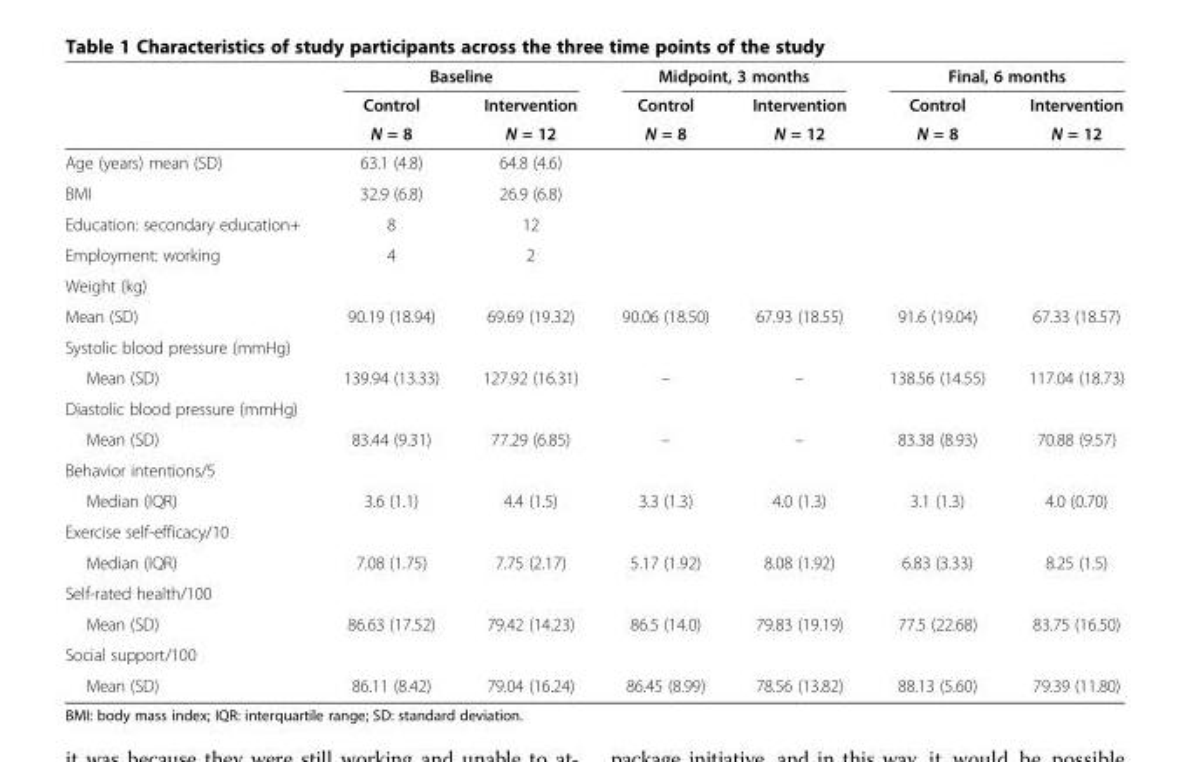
<table><thead><tr><td rowspan="3"></td><td colspan="2">Baseline</td><td colspan="2">Midpoint, 3 months</td><td colspan="2">Final, 6 months</td></tr><tr><td rowspan="2">Control N = 8</td><td rowspan="2">Intervention N = 12</td><td rowspan="2">Control N = 8</td><td rowspan="2">Intervention N = 12</td><td rowspan="2">Control N = 8</td><td rowspan="2">Intervention N = 12</td></tr><tr></tr></thead><tbody><tr><td>Age (years) mean (SD)</td><td>63.1 (4.8)</td><td>64.8 (4.6)</td><td></td><td></td><td></td><td></td></tr><tr><td>BMI</td><td>32.9 (6.8)</td><td>26.9 (6.8)</td><td></td><td></td><td></td><td></td></tr><tr><td>Education: secondary education+</td><td>8</td><td>12</td><td></td><td></td><td></td><td></td></tr><tr><td>Employment: working</td><td>4</td><td>2</td><td></td><td></td><td></td><td></td></tr><tr><td colspan="7">Weight (kg)</td></tr><tr><td>Mean (SD)</td><td>90.19 (18.94)</td><td>69.69 (19.32)</td><td>90.06 (18.50)</td><td>67.93 (18.55)</td><td>91.6 (19.04)</td><td>67.33 (18.57)</td></tr><tr><td colspan="7">Systolic blood pressure (mmHg)</td></tr><tr><td>Mean (SD)</td><td>139.94 (13.33)</td><td>127.92 (16.31)</td><td>–</td><td>–</td><td>138.56 (14.55)</td><td>117.04 (18.73)</td></tr><tr><td colspan="7">Diastolic blood pressure (mmHg)</td></tr><tr><td>Mean (SD)</td><td>83.44 (9.31)</td><td>77.29 (6.85)</td><td>–</td><td>–</td><td>83.38 (8.93)</td><td>70.88 (9.57)</td></tr><tr><td colspan="7">Behavior intentions/5</td></tr><tr><td>Median (IQR)</td><td>3.6 (1.1)</td><td>4.4 (1.5)</td><td>3.3 (1.3)</td><td>4.0 (1.3)</td><td>3.1 (1.3)</td><td>4.0 (0.70)</td></tr><tr><td colspan="7">Exercise self-efficacy/10</td></tr><tr><td>Median (IQR)</td><td>7.08 (1.75)</td><td>7.75 (2.17)</td><td>5.17 (1.92)</td><td>8.08 (1.92)</td><td>6.83 (3.33)</td><td>8.25 (1.5)</td></tr><tr><td colspan="7">Self-rated health/100</td></tr><tr><td>Mean (SD)</td><td>86.63 (17.52)</td><td>79.42 (14.23)</td><td>86.5 (14.0)</td><td>79.83 (19.19)</td><td>77.5 (22.68)</td><td>83.75 (16.50)</td></tr><tr><td colspan="7">Social support/100</td></tr><tr><td>Mean (SD)</td><td>86.11 (8.42)</td><td>79.04 (16.24)</td><td>86.45 (8.99)</td><td>78.56 (13.82)</td><td>88.13 (5.60)</td><td>79.39 (11.80)</td></tr></tbody></table>